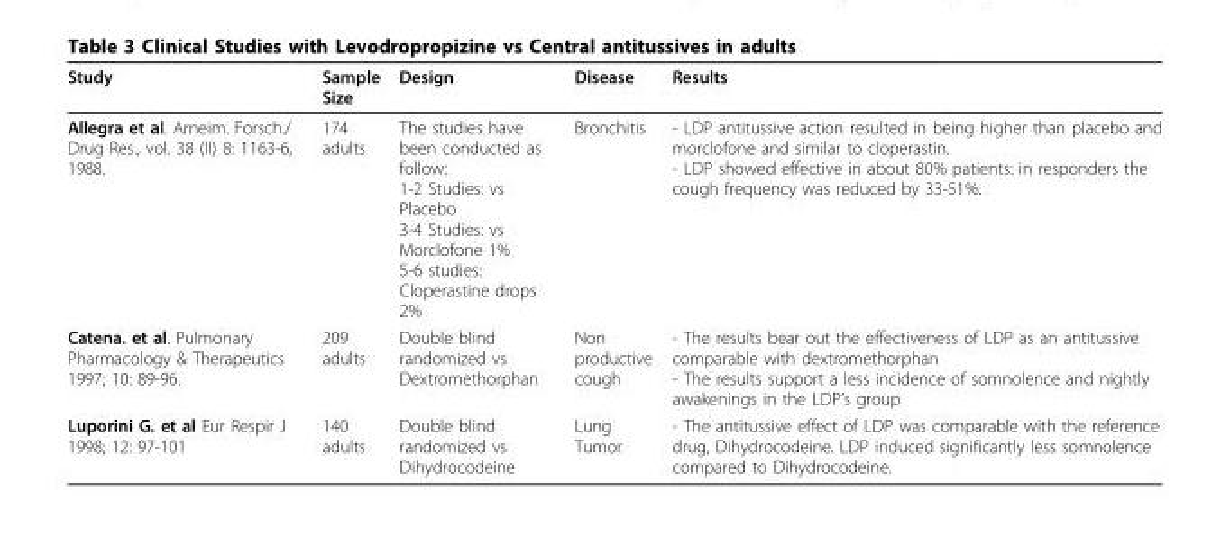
<table><thead><tr><td>Study</td><td>Sample Size</td><td>Design</td><td>Disease</td><td>Results</td></tr></thead><tbody><tr><td>Allegra et al. Arneim. Forsch./ Drug Res., vol. 38 (II) 8: 1163-6, 1988.</td><td>174 adults</td><td>The studies have been conducted as follow: 1-2 Studies: vs Placebo 3-4 Studies: vs Morclofone 1% 5-6 studies: Cloperastine drops 2%</td><td>Bronchitis</td><td>- LDP antitussive action resulted in being higher than placebo and morclofone and similar to cloperastin. - LDP showed effective in about 80% patients: in responders the cough frequency was reduced by 33-51%.</td></tr><tr><td>Catena. et al. Pulmonary Pharmacology &amp; Therapeutics 1997; 10: 89-96.</td><td>209 adults</td><td>Double blind randomized vs Dextromethorphan</td><td>Non productive cough</td><td>- The results bear out the effectiveness of LDP as an antitussive comparable with dextromethorphan - The results support a less incidence of somnolence and nightly awakenings in the LDP’s group</td></tr><tr><td>Luporini G. et al Eur Respir J 1998; 12: 97-101</td><td>140 adults</td><td>Double blind randomized vs Dihydrocodeine</td><td>Lung Tumor</td><td>- The antitussive effect of LDP was comparable with the reference drug, Dihydrocodeine. LDP induced significantly less somnolence compared to Dihydrocodeine.</td></tr></tbody></table>